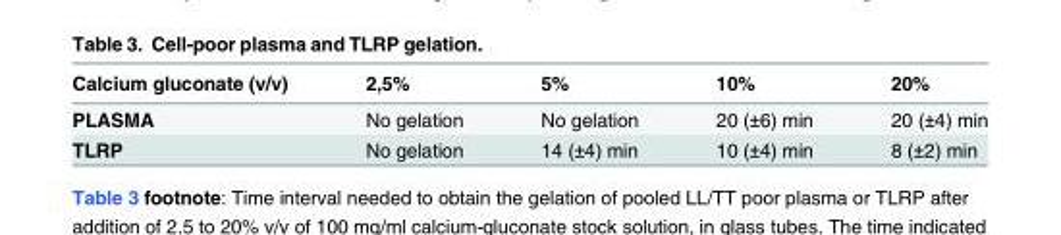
<table><thead><tr><td>Calcium gluconate (v/v)</td><td>2,5%</td><td>5%</td><td>10%</td><td>20%</td></tr></thead><tbody><tr><td>PLASMA</td><td>No gelation</td><td>No gelation</td><td>20 (±6) min</td><td>20 (±4) min</td></tr><tr><td>TLRP</td><td>No gelation</td><td>14 (±4) min</td><td>10 (±4) min</td><td>8 (±2) min</td></tr></tbody></table>